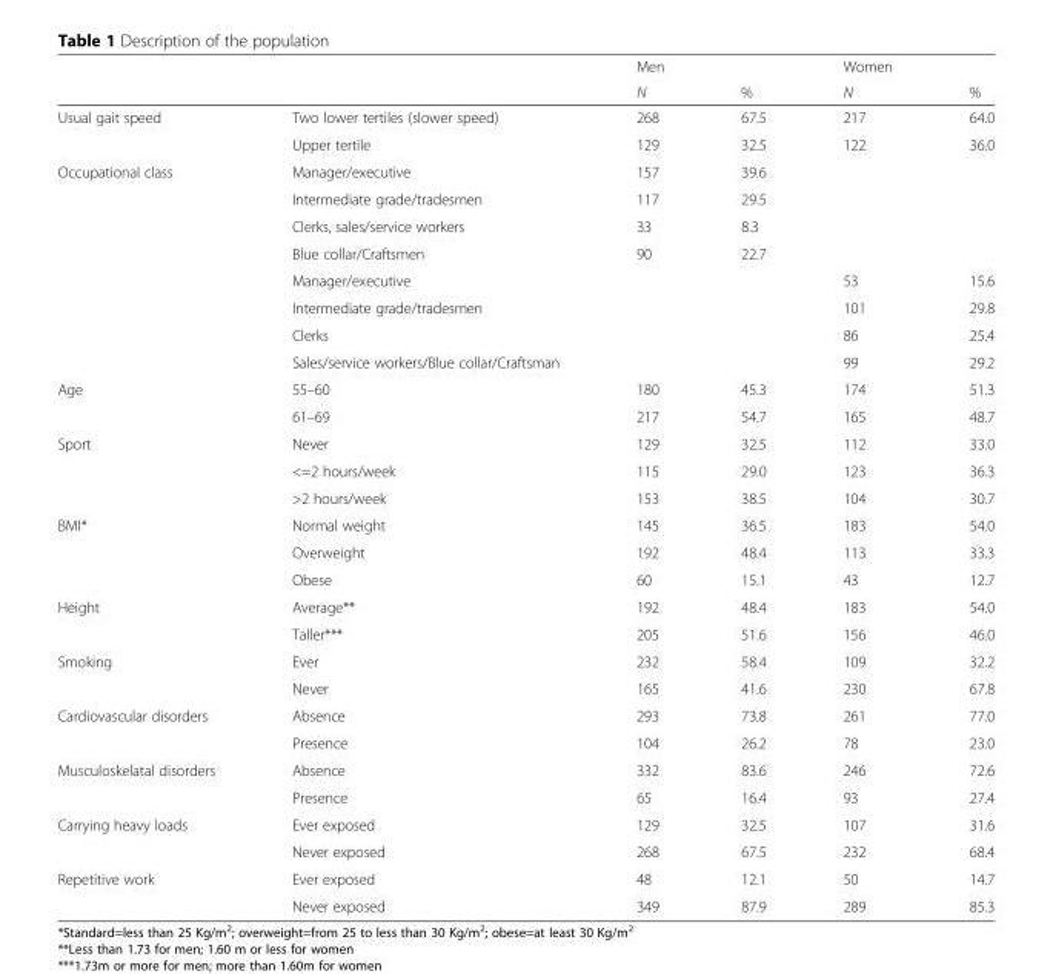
<table><thead><tr><td rowspan="2"></td><td rowspan="2"></td><td rowspan="2">Men N</td><td rowspan="2">%</td><td rowspan="2">Women N</td><td rowspan="2">%</td></tr><tr></tr></thead><tbody><tr><td rowspan="2">Usual gait speed</td><td>Two lower tertiles (slower speed)</td><td>268</td><td>67.5</td><td>217</td><td>64.0</td></tr><tr><td>Upper tertile</td><td>129</td><td>32.5</td><td>122</td><td>36.0</td></tr><tr><td rowspan="8">Occupational class</td><td>Manager/executive</td><td>157</td><td>39.6</td><td></td><td></td></tr><tr><td>Intermediate grade/tradesmen</td><td>117</td><td>29.5</td><td></td><td></td></tr><tr><td>Clerks, sales/service workers</td><td>33</td><td>8.3</td><td></td><td></td></tr><tr><td>Blue collar/Craftsmen</td><td>90</td><td>22.7</td><td></td><td></td></tr><tr><td>Manager/executive</td><td></td><td></td><td>53</td><td>15.6</td></tr><tr><td>Intermediate grade/tradesmen</td><td></td><td></td><td>101</td><td>29.8</td></tr><tr><td>Clerks</td><td></td><td></td><td>86</td><td>25.4</td></tr><tr><td>Sales/service workers/Blue collar/Craftsman</td><td></td><td></td><td>99</td><td>29.2</td></tr><tr><td rowspan="2">Age</td><td>55–60</td><td>180</td><td>45.3</td><td>174</td><td>51.3</td></tr><tr><td>61–69</td><td>217</td><td>54.7</td><td>165</td><td>48.7</td></tr><tr><td rowspan="3">Sport</td><td>Never</td><td>129</td><td>32.5</td><td>112</td><td>33.0</td></tr><tr><td>&lt;=2 hours/week</td><td>115</td><td>29.0</td><td>123</td><td>36.3</td></tr><tr><td>&gt;2 hours/week</td><td>153</td><td>38.5</td><td>104</td><td>30.7</td></tr><tr><td rowspan="3">BMI*</td><td>Normal weight</td><td>145</td><td>36.5</td><td>183</td><td>54.0</td></tr><tr><td>Overweight</td><td>192</td><td>48.4</td><td>113</td><td>33.3</td></tr><tr><td>Obese</td><td>60</td><td>15.1</td><td>43</td><td>12.7</td></tr><tr><td rowspan="2">Height</td><td>Average**</td><td>192</td><td>48.4</td><td>183</td><td>54.0</td></tr><tr><td>Taller***</td><td>205</td><td>51.6</td><td>156</td><td>46.0</td></tr><tr><td rowspan="2">Smoking</td><td>Ever</td><td>232</td><td>58.4</td><td>109</td><td>32.2</td></tr><tr><td>Never</td><td>165</td><td>41.6</td><td>230</td><td>67.8</td></tr><tr><td rowspan="2">Cardiovascular disorders</td><td>Absence</td><td>293</td><td>73.8</td><td>261</td><td>77.0</td></tr><tr><td>Presence</td><td>104</td><td>26.2</td><td>78</td><td>23.0</td></tr><tr><td rowspan="2">Musculoskelatal disorders</td><td>Absence</td><td>332</td><td>83.6</td><td>246</td><td>72.6</td></tr><tr><td>Presence</td><td>65</td><td>16.4</td><td>93</td><td>27.4</td></tr><tr><td rowspan="2">Carrying heavy loads</td><td>Ever exposed</td><td>129</td><td>32.5</td><td>107</td><td>31.6</td></tr><tr><td>Never exposed</td><td>268</td><td>67.5</td><td>232</td><td>68.4</td></tr><tr><td rowspan="2">Repetitive work</td><td>Ever exposed</td><td>48</td><td>12.1</td><td>50</td><td>14.7</td></tr><tr><td>Never exposed</td><td>349</td><td>87.9</td><td>289</td><td>85.3</td></tr></tbody></table>